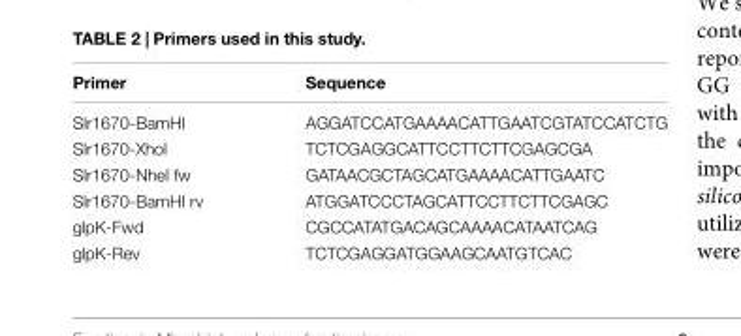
<table><thead><tr><td>Primer</td><td>Sequence</td></tr></thead><tbody><tr><td>Slr1670-BamHI</td><td>AGGATCCATGAAAACATTGAATCGTATCCATCTG</td></tr><tr><td>Slr1670-XhoI</td><td>TCTCGAGGCATTCCTTCTTCGAGCGA</td></tr><tr><td>Slr1670-NheI fw</td><td>GATAACGCTAGCATGAAAACATTGAATC</td></tr><tr><td>Slr1670-BamHI rv</td><td>ATGGATCCCTAGCATTCCTTCTTCGAGC</td></tr><tr><td>glpK-Fwd</td><td>CGCCATATGACAGCAAAACATAATCAG</td></tr><tr><td>glpK-Rev</td><td>TCTCGAGGATGGAAGCAATGTCAC</td></tr></tbody></table>